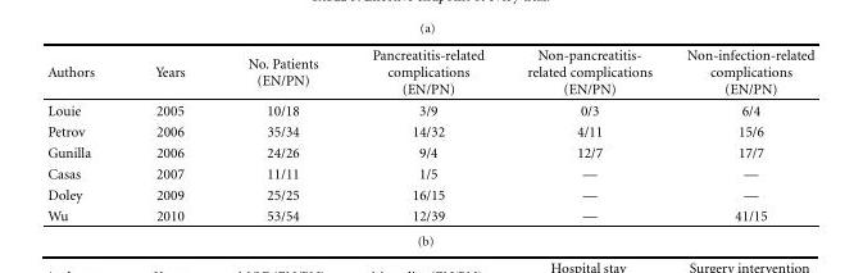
<table><thead><tr><td>Authors</td><td>Years</td><td>No. Patients (EN/PN)</td><td>Pancreatitis-related complications (EN/PN)</td><td>Non-pancreatitis- related complications (EN/PN)</td><td>Non-infection-related complications (EN/PN)</td></tr></thead><tbody><tr><td>Louie</td><td>2005</td><td>10/18</td><td>3/9</td><td>0/3</td><td>6/4</td></tr><tr><td>Petrov</td><td>2006</td><td>35/34</td><td>14/32</td><td>4/11</td><td>15/6</td></tr><tr><td>Gunilla</td><td>2006</td><td>24/26</td><td>9/4</td><td>12/7</td><td>17/7</td></tr><tr><td>Casas</td><td>2007</td><td>11/11</td><td>1/5</td><td>—</td><td>—</td></tr><tr><td>Doley</td><td>2009</td><td>25/25</td><td>16/15</td><td>—</td><td>—</td></tr><tr><td>Wu</td><td>2010</td><td>53/54</td><td>12/39</td><td>—</td><td>41/15</td></tr></tbody></table>